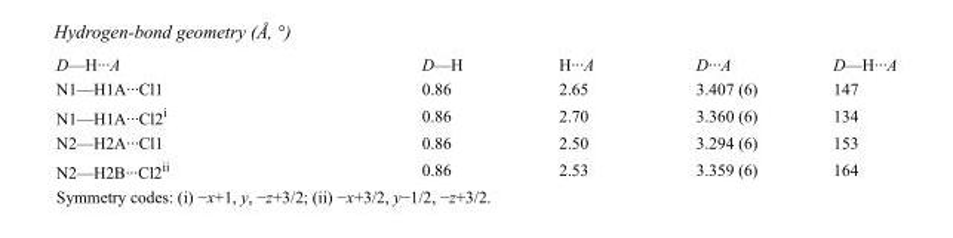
<table><tbody><tr><td>D—H···A</td><td>D—H</td><td>H···A</td><td>D···A</td><td>D—H···A</td></tr><tr><td>N1—H1A···Cl1</td><td>0.86</td><td>2.65</td><td>3.407 (6)</td><td>147</td></tr><tr><td>N1—H1A···Cl2<sup>i</sup></td><td>0.86</td><td>2.70</td><td>3.360 (6)</td><td>134</td></tr><tr><td>N2—H2A···Cl1</td><td>0.86</td><td>2.50</td><td>3.294 (6)</td><td>153</td></tr><tr><td>N2—H2B···Cl2<sup>ii</sup></td><td>0.86</td><td>2.53</td><td>3.359 (6)</td><td>164</td></tr></tbody></table>